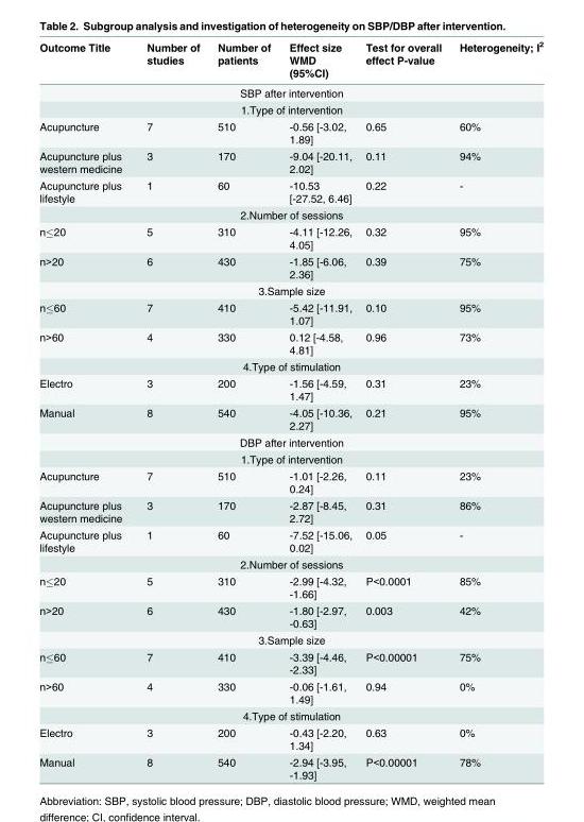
<table><thead><tr><td>Outcome Title</td><td>Number of studies</td><td>Number of patients</td><td>Effect size WMD (95%CI)</td><td>Test for overall effect P-value</td><td>Heterogeneity; I<sup>2</sup></td></tr></thead><tbody><tr><td colspan="6">SBP after intervention</td></tr><tr><td colspan="6">1.Type of intervention</td></tr><tr><td>Acupuncture</td><td>7</td><td>510</td><td>-0.56 [-3.02, 1.89]</td><td>0.65</td><td>60%</td></tr><tr><td>Acupuncture plus western medicine</td><td>3</td><td>170</td><td>-9.04 [-20.11, 2.02]</td><td>0.11</td><td>94%</td></tr><tr><td>Acupuncture plus lifestyle</td><td>1</td><td>60</td><td>-10.53 [-27.52, 6.46]</td><td>0.22</td><td>-</td></tr><tr><td colspan="6">2.Number of sessions</td></tr><tr><td>n≤20</td><td>5</td><td>310</td><td>-4.11 [-12.26, 4.05]</td><td>0.32</td><td>95%</td></tr><tr><td>n&gt;20</td><td>6</td><td>430</td><td>-1.85 [-6.06, 2.36]</td><td>0.39</td><td>75%</td></tr><tr><td colspan="6">3.Sample size</td></tr><tr><td>n≤60</td><td>7</td><td>410</td><td>-5.42 [-11.91, 1.07]</td><td>0.10</td><td>95%</td></tr><tr><td>n&gt;60</td><td>4</td><td>330</td><td>0.12 [-4.58, 4.81]</td><td>0.96</td><td>73%</td></tr><tr><td colspan="6">4.Type of stimulation</td></tr><tr><td>Electro</td><td>3</td><td>200</td><td>-1.56 [-4.59, 1.47]</td><td>0.31</td><td>23%</td></tr><tr><td>Manual</td><td>8</td><td>540</td><td>-4.05 [-10.36, 2.27]</td><td>0.21</td><td>95%</td></tr><tr><td colspan="6">DBP after intervention</td></tr><tr><td colspan="6">1.Type of intervention</td></tr><tr><td>Acupuncture</td><td>7</td><td>510</td><td>-1.01 [-2.26, 0.24]</td><td>0.11</td><td>23%</td></tr><tr><td>Acupuncture plus western medicine</td><td>3</td><td>170</td><td>-2.87 [-8.45, 2.72]</td><td>0.31</td><td>86%</td></tr><tr><td>Acupuncture plus lifestyle</td><td>1</td><td>60</td><td>-7.52 [-15.06, 0.02]</td><td>0.05</td><td>-</td></tr><tr><td colspan="6">2.Number of sessions</td></tr><tr><td>n≤20</td><td>5</td><td>310</td><td>-2.99 [-4.32, -1.66]</td><td>P&lt;0.0001</td><td>85%</td></tr><tr><td>n&gt;20</td><td>6</td><td>430</td><td>-1.80 [-2.97, -0.63]</td><td>0.003</td><td>42%</td></tr><tr><td colspan="6">3.Sample size</td></tr><tr><td>n≤60</td><td>7</td><td>410</td><td>-3.39 [-4.46, -2.33]</td><td>P&lt;0.00001</td><td>75%</td></tr><tr><td>n&gt;60</td><td>4</td><td>330</td><td>-0.06 [-1.61, 1.49]</td><td>0.94</td><td>0%</td></tr><tr><td colspan="6">4.Type of stimulation</td></tr><tr><td>Electro</td><td>3</td><td>200</td><td>-0.43 [-2.20, 1.34]</td><td>0.63</td><td>0%</td></tr><tr><td>Manual</td><td>8</td><td>540</td><td>-2.94 [-3.95, -1.93]</td><td>P&lt;0.00001</td><td>78%</td></tr></tbody></table>